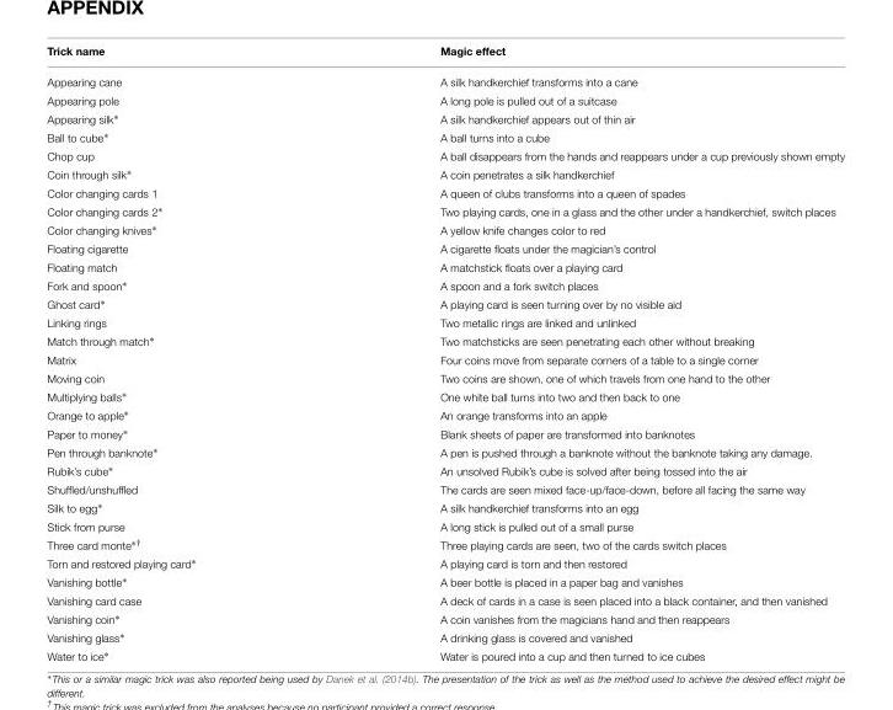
<table><thead><tr><td>Trick name</td><td>Magic effect</td></tr></thead><tbody><tr><td>Appearing cane</td><td>A silk handkerchief transforms into a cane</td></tr><tr><td>Appearing pole</td><td>A long pole is pulled out of a suitcase</td></tr><tr><td>Appearing silk∗</td><td>A silk handkerchief appears out of thin air</td></tr><tr><td>Ball to cube∗</td><td>A ball turns into a cube</td></tr><tr><td>Chop cup</td><td>A ball disappears from the hands and reappears under a cup previously shown empty</td></tr><tr><td>Coin through silk∗</td><td>A coin penetrates a silk handkerchief</td></tr><tr><td>Color changing cards 1</td><td>A queen of clubs transforms into a queen of spades</td></tr><tr><td>Color changing cards 2∗</td><td>Two playing cards, one in a glass and the other under a handkerchief, switch places</td></tr><tr><td>Color changing knives∗</td><td>A yellow knife changes color to red</td></tr><tr><td>Floating cigarette</td><td>A cigarette floats under the magician’s control</td></tr><tr><td>Floating match</td><td>A matchstick floats over a playing card</td></tr><tr><td>Fork and spoon∗</td><td>A spoon and a fork switch places</td></tr><tr><td>Ghost card∗</td><td>A playing card is seen turning over by no visible aid</td></tr><tr><td>Linking rings</td><td>Two metallic rings are linked and unlinked</td></tr><tr><td>Match through match∗</td><td>Two matchsticks are seen penetrating each other without breaking</td></tr><tr><td>Matrix</td><td>Four coins move from separate corners of a table to a single corner</td></tr><tr><td>Moving coin</td><td>Two coins are shown, one of which travels from one hand to the other</td></tr><tr><td>Multiplying balls∗</td><td>One white ball turns into two and then back to one</td></tr><tr><td>Orange to apple∗</td><td>An orange transforms into an apple</td></tr><tr><td>Paper to money∗</td><td>Blank sheets of paper are transformed into banknotes</td></tr><tr><td>Pen through banknote∗</td><td>A pen is pushed through a banknote without the banknote taking any damage.</td></tr><tr><td>Rubik’s cube∗</td><td>An unsolved Rubik’s cube is solved after being tossed into the air</td></tr><tr><td>Shuffled/unshuffled</td><td>The cards are seen mixed face-up/face-down, before all facing the same way</td></tr><tr><td>Silk to egg∗</td><td>A silk handkerchief transforms into an egg</td></tr><tr><td>Stick from purse</td><td>A long stick is pulled out of a small purse</td></tr><tr><td>Three card monte∗†</td><td>Three playing cards are seen, two of the cards switch places</td></tr><tr><td>Torn and restored playing card∗</td><td>A playing card is torn and then restored</td></tr><tr><td>Vanishing bottle∗</td><td>A beer bottle is placed in a paper bag and vanishes</td></tr><tr><td>Vanishing card case</td><td>A deck of cards in a case is seen placed into a black container, and then vanished</td></tr><tr><td>Vanishing coin∗</td><td>A coin vanishes from the magicians hand and then reappears</td></tr><tr><td>Vanishing glass∗</td><td>A drinking glass is covered and vanished</td></tr><tr><td>Water to ice∗</td><td>Water is poured into a cup and then turned to ice cubes</td></tr></tbody></table>